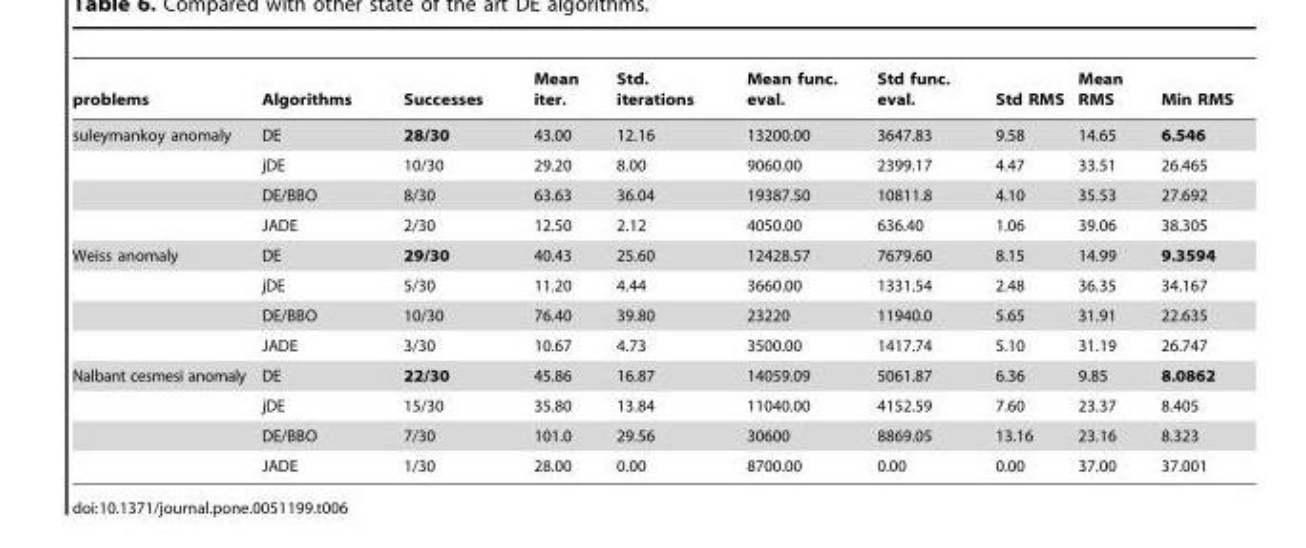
<table><thead><tr><td>problems</td><td>Algorithms</td><td>Successes</td><td>Mean iter.</td><td>Std. iterations</td><td>Mean func. eval.</td><td>Std func. eval.</td><td>Std RMS</td><td>Mean RMS</td><td>Min RMS</td></tr></thead><tbody><tr><td rowspan="4">suleymankoy anomaly</td><td>DE</td><td>28/30</td><td>43.00</td><td>12.16</td><td>13200.00</td><td>3647.83</td><td>9.58</td><td>14.65</td><td>6.546</td></tr><tr><td>jDE</td><td>10/30</td><td>29.20</td><td>8.00</td><td>9060.00</td><td>2399.17</td><td>4.47</td><td>33.51</td><td>26.465</td></tr><tr><td>DE/BBO</td><td>8/30</td><td>63.63</td><td>36.04</td><td>19387.50</td><td>10811.8</td><td>4.10</td><td>35.53</td><td>27.692</td></tr><tr><td>JADE</td><td>2/30</td><td>12.50</td><td>2.12</td><td>4050.00</td><td>636.40</td><td>1.06</td><td>39.06</td><td>38.305</td></tr><tr><td rowspan="4">Weiss anomaly</td><td>DE</td><td>29/30</td><td>40.43</td><td>25.60</td><td>12428.57</td><td>7679.60</td><td>8.15</td><td>14.99</td><td>9.3594</td></tr><tr><td>jDE</td><td>5/30</td><td>11.20</td><td>4.44</td><td>3660.00</td><td>1331.54</td><td>2.48</td><td>36.35</td><td>34.167</td></tr><tr><td>DE/BBO</td><td>10/30</td><td>76.40</td><td>39.80</td><td>23220</td><td>11940.0</td><td>5.65</td><td>31.91</td><td>22.635</td></tr><tr><td>JADE</td><td>3/30</td><td>10.67</td><td>4.73</td><td>3500.00</td><td>1417.74</td><td>5.10</td><td>31.19</td><td>26.747</td></tr><tr><td rowspan="4">Nalbant cesmesi anomaly</td><td>DE</td><td>22/30</td><td>45.86</td><td>16.87</td><td>14059.09</td><td>5061.87</td><td>6.36</td><td>9.85</td><td>8.0862</td></tr><tr><td>jDE</td><td>15/30</td><td>35.80</td><td>13.84</td><td>11040.00</td><td>4152.59</td><td>7.60</td><td>23.37</td><td>8.405</td></tr><tr><td>DE/BBO</td><td>7/30</td><td>101.0</td><td>29.56</td><td>30600</td><td>8869.05</td><td>13.16</td><td>23.16</td><td>8.323</td></tr><tr><td>JADE</td><td>1/30</td><td>28.00</td><td>0.00</td><td>8700.00</td><td>0.00</td><td>0.00</td><td>37.00</td><td>37.001</td></tr></tbody></table>